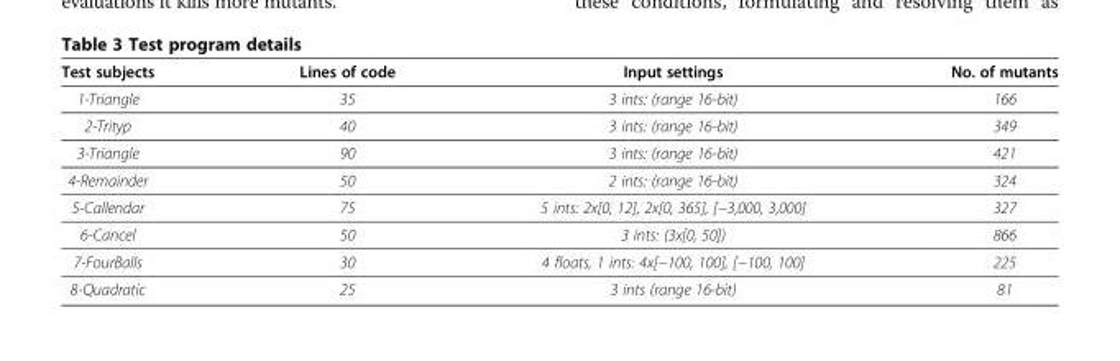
<table><thead><tr><td>Test subjects</td><td>Lines of code</td><td>Input settings</td><td>No. of mutants</td></tr></thead><tbody><tr><td>1-Triangle</td><td>35</td><td>3 ints: (range 16-bit)</td><td>166</td></tr><tr><td>2-Trityp</td><td>40</td><td>3 ints: (range 16-bit)</td><td>349</td></tr><tr><td>3-Triangle</td><td>90</td><td>3 ints: (range 16-bit)</td><td>421</td></tr><tr><td>4-Remainder</td><td>50</td><td>2 ints: (range 16-bit)</td><td>324</td></tr><tr><td>5-Callendar</td><td>75</td><td>5 ints: 2x[0, 12], 2x[0, 365], [−3,000, 3,000]</td><td>327</td></tr><tr><td>6-Cancel</td><td>50</td><td>3 ints: (3x[0, 50])</td><td>866</td></tr><tr><td>7-FourBalls</td><td>30</td><td>4 floats, 1 ints: 4x[−100, 100], [−100, 100]</td><td>225</td></tr><tr><td>8-Quadratic</td><td>25</td><td>3 ints (range 16-bit)</td><td>81</td></tr></tbody></table>